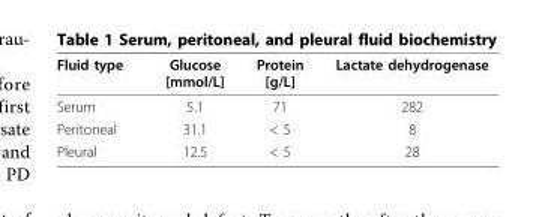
<table><thead><tr><td>Fluid type</td><td>Glucose [mmol/L]</td><td>Protein [g/L]</td><td>Lactate dehydrogenase</td></tr></thead><tbody><tr><td>Serum</td><td>5.1</td><td>71</td><td>282</td></tr><tr><td>Peritoneal</td><td>31.1</td><td>&lt; 5</td><td>8</td></tr><tr><td>Pleural</td><td>12.5</td><td>&lt; 5</td><td>28</td></tr></tbody></table>